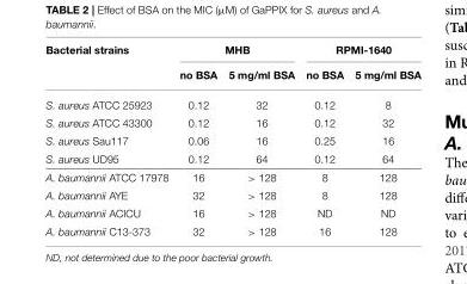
<table><thead><tr><td rowspan="2">Bacterial strains</td><td colspan="2">MHB</td><td colspan="2">RPMI-1640</td></tr><tr><td>no BSA</td><td>5 mg/ml BSA</td><td>no BSA</td><td>5 mg/ml BSA</td></tr></thead><tbody><tr><td>S. aureus ATCC 25923</td><td>0.12</td><td>32</td><td>0.12</td><td>8</td></tr><tr><td>S. aureus ATCC 43300</td><td>0.12</td><td>16</td><td>0.12</td><td>32</td></tr><tr><td>S. aureus Sau117</td><td>0.06</td><td>16</td><td>0.25</td><td>16</td></tr><tr><td>S. aureus UD95</td><td>0.12</td><td>64</td><td>0.12</td><td>64</td></tr><tr><td>A. baumannii ATCC 17978</td><td>16</td><td>&gt; 128</td><td>8</td><td>128</td></tr><tr><td>A. baumannii AYE</td><td>32</td><td>&gt; 128</td><td>8</td><td>128</td></tr><tr><td>A. baumannii ACICU</td><td>16</td><td>&gt; 128</td><td>ND</td><td>ND</td></tr><tr><td>A. baumannii C13-373</td><td>32</td><td>&gt; 128</td><td>16</td><td>128</td></tr></tbody></table>